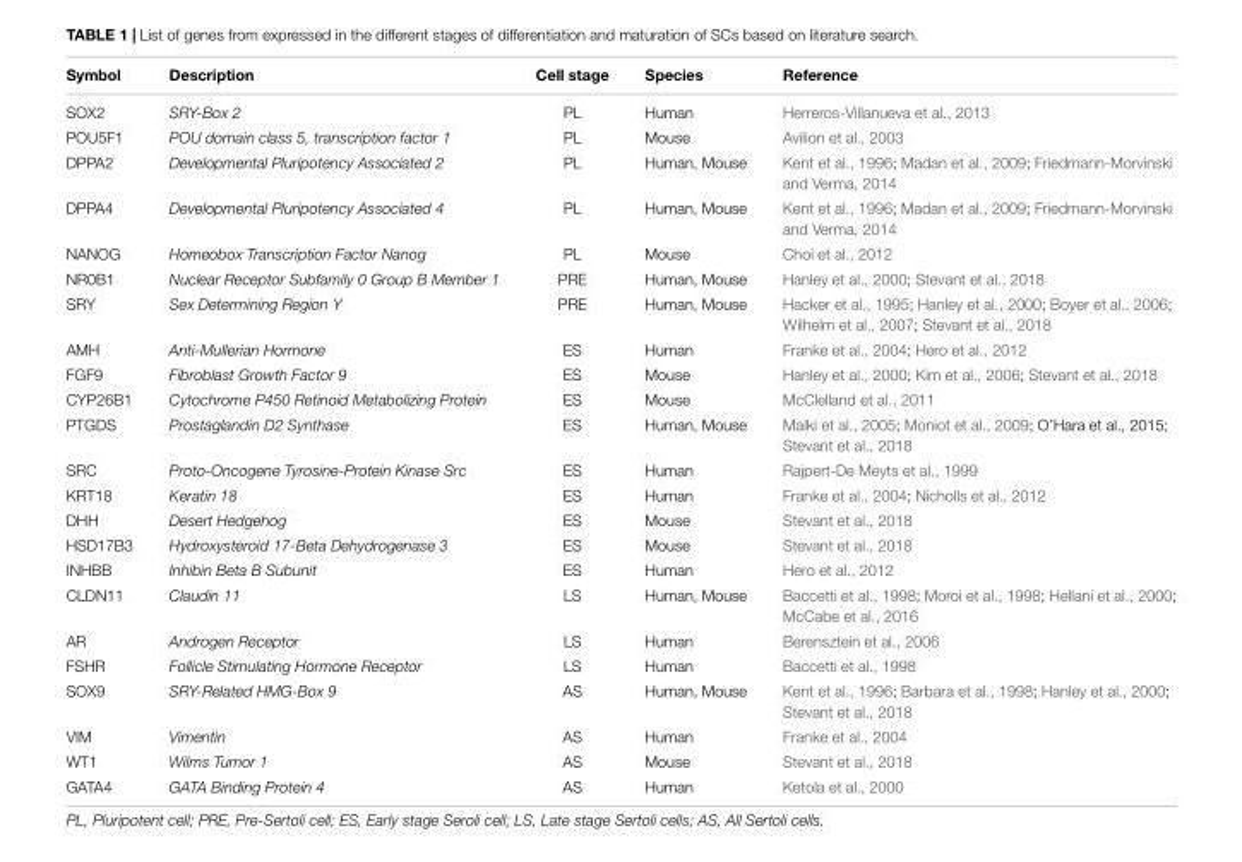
<table><thead><tr><td>Symbol</td><td>Description</td><td>Cell stage</td><td>Species</td><td>Reference</td></tr></thead><tbody><tr><td>SOX2</td><td>SRY-Box 2</td><td>PL</td><td>Human</td><td>Herreros-Villanueva et al., 2013</td></tr><tr><td>POU5F1</td><td>POU domain class 5, transcription factor 1</td><td>PL</td><td>Mouse</td><td>Avilion et al., 2003</td></tr><tr><td>DPPA2</td><td>Developmental Pluripotency Associated 2</td><td>PL</td><td>Human, Mouse</td><td>Kent et al., 1996; Madan et al., 2009; Friedmann-Morvinski and Verma, 2014</td></tr><tr><td>DPPA4</td><td>Developmental Pluripotency Associated 4</td><td>PL</td><td>Human, Mouse</td><td>Kent et al., 1996; Madan et al., 2009; Friedmann-Morvinski and Verma, 2014</td></tr><tr><td>NANOG</td><td>Homeobox Transcription Factor Nanog</td><td>PL</td><td>Mouse</td><td>Choi et al., 2012</td></tr><tr><td>NR0B1</td><td>Nuclear Receptor Subfamily 0 Group B Member 1</td><td>PRE</td><td>Human, Mouse</td><td>Hanley et al., 2000; Stevant et al., 2018</td></tr><tr><td>SRY</td><td>Sex Determining Region Y</td><td>PRE</td><td>Human, Mouse</td><td>Hacker et al., 1995; Hanley et al., 2000; Boyer et al., 2006; Wilhelm et al., 2007; Stevant et al., 2018</td></tr><tr><td>AMH</td><td>Anti-Mullerian Hormone</td><td>ES</td><td>Human</td><td>Franke et al., 2004; Hero et al., 2012</td></tr><tr><td>FGF9</td><td>Fibroblast Growth Factor 9</td><td>ES</td><td>Mouse</td><td>Hanley et al., 2000; Kim et al., 2006; Stevant et al., 2018</td></tr><tr><td>CYP26B1</td><td>Cytochrome P450 Retinoid Metabolizing Protein</td><td>ES</td><td>Mouse</td><td>McClelland et al., 2011</td></tr><tr><td>PTGDS</td><td>Prostaglandin D2 Synthase</td><td>ES</td><td>Human, Mouse</td><td>Malki et al., 2005; Moniot et al., 2009; O’Hara et al., 2015; Stevant et al., 2018</td></tr><tr><td>SRC</td><td>Proto-Oncogene Tyrosine-Protein Kinase Src</td><td>ES</td><td>Human</td><td>Rajpert-De Meyts et al., 1999</td></tr><tr><td>KRT18</td><td>Keratin 18</td><td>ES</td><td>Human</td><td>Franke et al., 2004; Nicholls et al., 2012</td></tr><tr><td>DHH</td><td>Desert Hedgehog</td><td>ES</td><td>Mouse</td><td>Stevant et al., 2018</td></tr><tr><td>HSD17B3</td><td>Hydroxysteroid 17-Beta Dehydrogenase 3</td><td>ES</td><td>Mouse</td><td>Stevant et al., 2018</td></tr><tr><td>INHBB</td><td>Inhibin Beta B Subunit</td><td>ES</td><td>Human</td><td>Hero et al., 2012</td></tr><tr><td>CLDN11</td><td>Claudin 11</td><td>LS</td><td>Human, Mouse</td><td>Baccetti et al., 1998; Moroi et al., 1998; Hellani et al., 2000; McCabe et al., 2016</td></tr><tr><td>AR</td><td>Androgen Receptor</td><td>LS</td><td>Human</td><td>Berensztein et al., 2006</td></tr><tr><td>FSHR</td><td>Follicle Stimulating Hormone Receptor</td><td>LS</td><td>Human</td><td>Baccetti et al., 1998</td></tr><tr><td>SOX9</td><td>SRY-Related HMG-Box 9</td><td>AS</td><td>Human, Mouse</td><td>Kent et al., 1996; Barbara et al., 1998; Hanley et al., 2000; Stevant et al., 2018</td></tr><tr><td>VIM</td><td>Vimentin</td><td>AS</td><td>Human</td><td>Franke et al., 2004</td></tr><tr><td>WT1</td><td>Wilms Tumor 1</td><td>AS</td><td>Mouse</td><td>Stevant et al., 2018</td></tr><tr><td>GATA4</td><td>GATA Binding Protein 4</td><td>AS</td><td>Human</td><td>Ketola et al., 2000</td></tr></tbody></table>